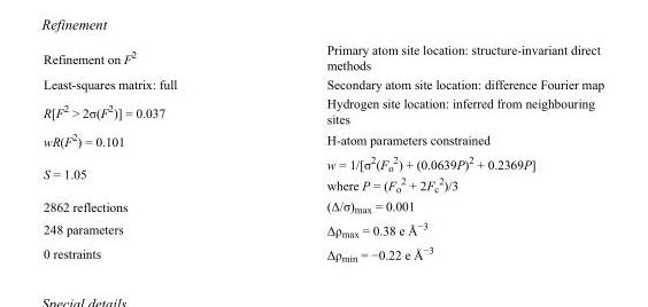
<table><tbody><tr><td>Refinement on F<sup>2</sup></td><td>Primary atom site location: structure-invariant direct methods</td></tr><tr><td>Least-squares matrix: full</td><td>Secondary atom site location: difference Fourier map</td></tr><tr><td>R[F<sup>2</sup> &gt; 2σ(F<sup>2</sup>)] = 0.037</td><td>Hydrogen site location: inferred from neighbouring sites</td></tr><tr><td>wR(F<sup>2</sup>) = 0.101</td><td>H-atom parameters constrained</td></tr><tr><td>S = 1.05</td><td>w = 1/[σ<sup>2</sup>(F<sub>o</sub> <sup>2</sup>) + (0.0639P)<sup>2</sup> + 0.2369P] where P = (F<sub>o</sub> <sup>2</sup> + 2F<sub>c</sub> <sup>2</sup>)/3</td></tr><tr><td>2862 reflections</td><td>(Δ/σ)<sub>max</sub> = 0.001</td></tr><tr><td>248 parameters</td><td>Δρ<sub>max</sub> = 0.38 e Å<sup>−3</sup></td></tr><tr><td>0 restraints</td><td>Δρ<sub>min</sub> = −0.22 e Å<sup>−3</sup></td></tr></tbody></table>